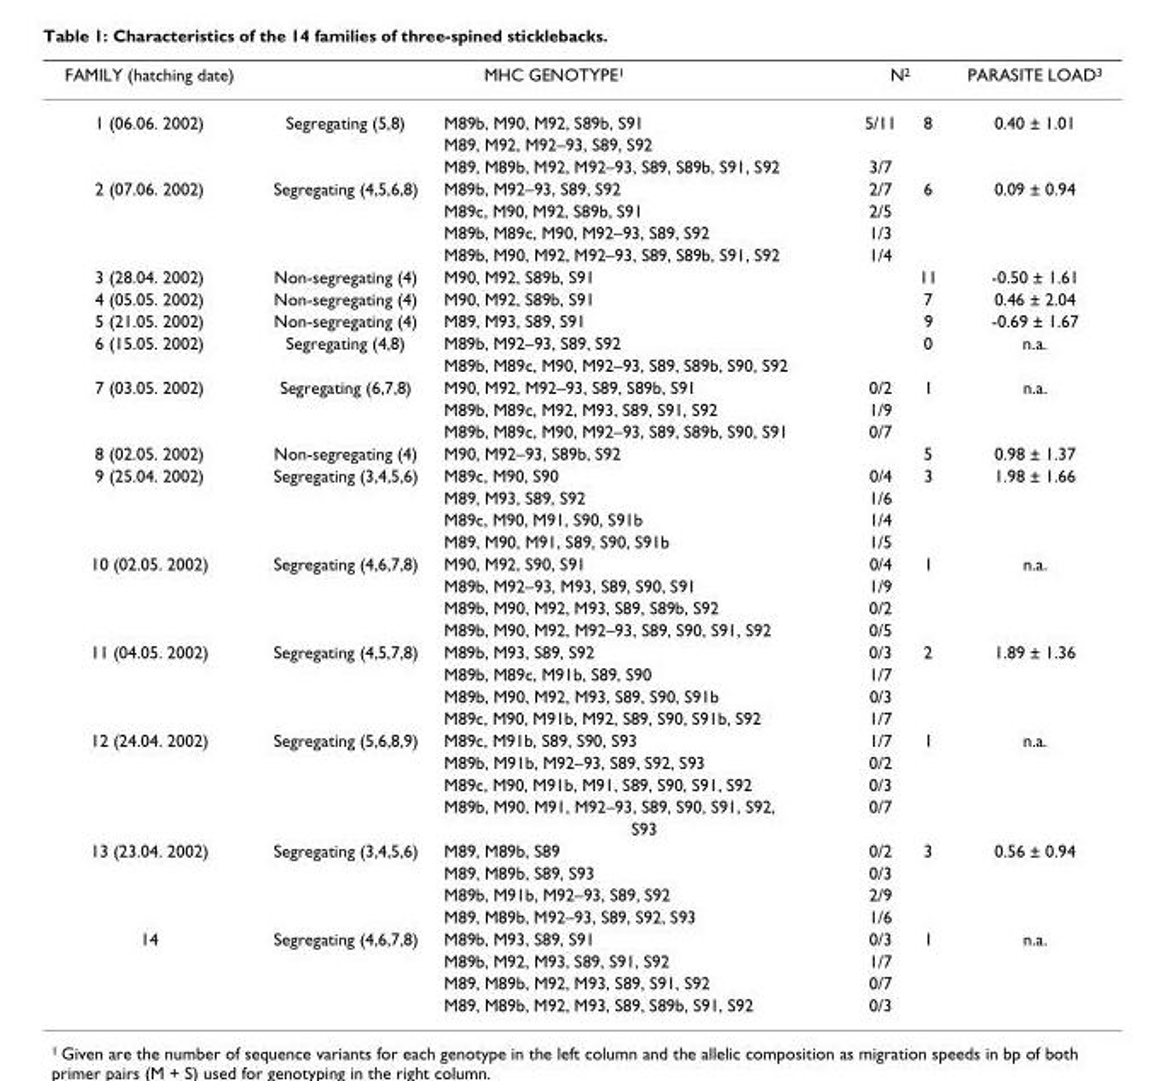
<table><thead><tr><td rowspan="2">FAMILY (hatching date) 1 (06.06. 2002)</td><td colspan="2">MHC GENOTYPE<sup>1</sup></td><td colspan="2">N<sup>2</sup></td><td rowspan="2">PARASITE LOAD<sup>3</sup> 0.40 ± 1.01</td></tr><tr><td>Segregating (5,8)</td><td>M89b, M90, M92, S89b, S91</td><td>5/11</td><td>8</td></tr></thead><tbody><tr><td></td><td></td><td>M89, M92, M92–93, S89, S92</td><td></td><td></td><td></td></tr><tr><td></td><td></td><td>M89, M89b, M92, M92–93, S89, S89b, S91, S92</td><td>3/7</td><td></td><td></td></tr><tr><td rowspan="4">2 (07.06. 2002)</td><td>Segregating (4,5,6,8)</td><td>M89b, M92–93, S89, S92</td><td>2/7</td><td>6</td><td>0.09 ± 0.94</td></tr><tr><td></td><td>M89c, M90, M92, S89b, S91</td><td>2/5</td><td></td><td></td></tr><tr><td></td><td>M89b, M89c, M90, M92–93, S89, S92</td><td>1/3</td><td></td><td></td></tr><tr><td></td><td>M89b, M90, M92, M92–93, S89, S89b, S91, S92</td><td>1/4</td><td></td><td></td></tr><tr><td>3 (28.04. 2002)</td><td>Non-segregating (4)</td><td>M90, M92, S89b, S91</td><td></td><td>11</td><td>-0.50 ± 1.61</td></tr><tr><td>4 (05.05. 2002)</td><td>Non-segregating (4)</td><td>M90, M92, S89b, S91</td><td></td><td>7</td><td>0.46 ± 2.04</td></tr><tr><td>5 (21.05. 2002)</td><td>Non-segregating (4)</td><td>M89, M93, S89, S91</td><td></td><td>9</td><td>-0.69 ± 1.67</td></tr><tr><td rowspan="2">6 (15.05. 2002)</td><td>Segregating (4,8)</td><td>M89b, M92–93, S89, S92</td><td></td><td>0</td><td>n.a.</td></tr><tr><td></td><td>M89b, M89c, M90, M92–93, S89, S89b, S90, S92</td><td></td><td></td><td></td></tr><tr><td rowspan="3">7 (03.05. 2002)</td><td>Segregating (6,7,8)</td><td>M90, M92, M92–93, S89, S89b, S91</td><td>0/2</td><td>1</td><td>n.a.</td></tr><tr><td></td><td>M89b, M89c, M92, M93, S89, S91, S92</td><td>1/9</td><td></td><td></td></tr><tr><td></td><td>M89b, M89c, M90, M92–93, S89, S89b, S90, S91</td><td>0/7</td><td></td><td></td></tr><tr><td>8 (02.05. 2002)</td><td>Non-segregating (4)</td><td>M90, M92–93, S89b, S92</td><td></td><td>5</td><td>0.98 ± 1.37</td></tr><tr><td rowspan="4">9 (25.04. 2002)</td><td>Segregating (3,4,5,6)</td><td>M89c, M90, S90</td><td>0/4</td><td>3</td><td>1.98 ± 1.66</td></tr><tr><td></td><td>M89, M93, S89, S92</td><td>1/6</td><td></td><td></td></tr><tr><td></td><td>M89c, M90, M91, S90, S91b</td><td>1/4</td><td></td><td></td></tr><tr><td></td><td>M89, M90, M91, S89, S90, S91b</td><td>1/5</td><td></td><td></td></tr><tr><td rowspan="4">10 (02.05. 2002)</td><td>Segregating (4,6,7,8)</td><td>M90, M92, S90, S91</td><td>0/4</td><td>1</td><td>n.a.</td></tr><tr><td></td><td>M89b, M92–93, M93, S89, S90, S91</td><td>1/9</td><td></td><td></td></tr><tr><td></td><td>M89b, M90, M92, M93, S89, S89b, S92</td><td>0/2</td><td></td><td></td></tr><tr><td></td><td>M89b, M90, M92, M92–93, S89, S90, S91, S92</td><td>0/5</td><td></td><td></td></tr><tr><td rowspan="4">11 (04.05. 2002)</td><td>Segregating (4,5,7,8)</td><td>M89b, M93, S89, S92</td><td>0/3</td><td>2</td><td>1.89 ± 1.36</td></tr><tr><td></td><td>M89b, M89c, M91b, S89, S90</td><td>1/7</td><td></td><td></td></tr><tr><td></td><td>M89b, M90, M92, M93, S89, S90, S91b</td><td>0/3</td><td></td><td></td></tr><tr><td></td><td>M89c, M90, M91b, M92, S89, S90, S91b, S92</td><td>1/7</td><td></td><td></td></tr><tr><td rowspan="5">12 (24.04. 2002)</td><td>Segregating (5,6,8,9)</td><td>M89c, M91b, S89, S90, S93</td><td>1/7</td><td>1</td><td>n.a.</td></tr><tr><td></td><td>M89b, M91b, M92–93, S89, S92, S93</td><td>0/2</td><td></td><td></td></tr><tr><td></td><td>M89c, M90, M91b, M91, S89, S90, S91, S92</td><td>0/3</td><td></td><td></td></tr><tr><td></td><td>M89b, M90, M91, M92–93, S89, S90, S91, S92,</td><td>0/7</td><td></td><td></td></tr><tr><td></td><td>S93</td><td></td><td></td><td></td></tr><tr><td rowspan="4">13 (23.04. 2002)</td><td>Segregating (3,4,5,6)</td><td>M89, M89b, S89</td><td>0/2</td><td>3</td><td>0.56 ± 0.94</td></tr><tr><td></td><td>M89, M89b, S89, S93</td><td>0/3</td><td></td><td></td></tr><tr><td></td><td>M89b, M91b, M92–93, S89, S92</td><td>2/9</td><td></td><td></td></tr><tr><td></td><td>M89, M89b, M92–93, S89, S92, S93</td><td>1/6</td><td></td><td></td></tr><tr><td rowspan="4">14</td><td>Segregating (4,6,7,8)</td><td>M89b, M93, S89, S91</td><td>0/3</td><td>1</td><td>n.a.</td></tr><tr><td></td><td>M89b, M92, M93, S89, S91, S92</td><td>1/7</td><td></td><td></td></tr><tr><td></td><td>M89, M89b, M92, M93, S89, S91, S92</td><td>0/7</td><td></td><td></td></tr><tr><td></td><td>M89, M89b, M92, M93, S89, S89b, S91, S92</td><td>0/3</td><td></td><td></td></tr></tbody></table>